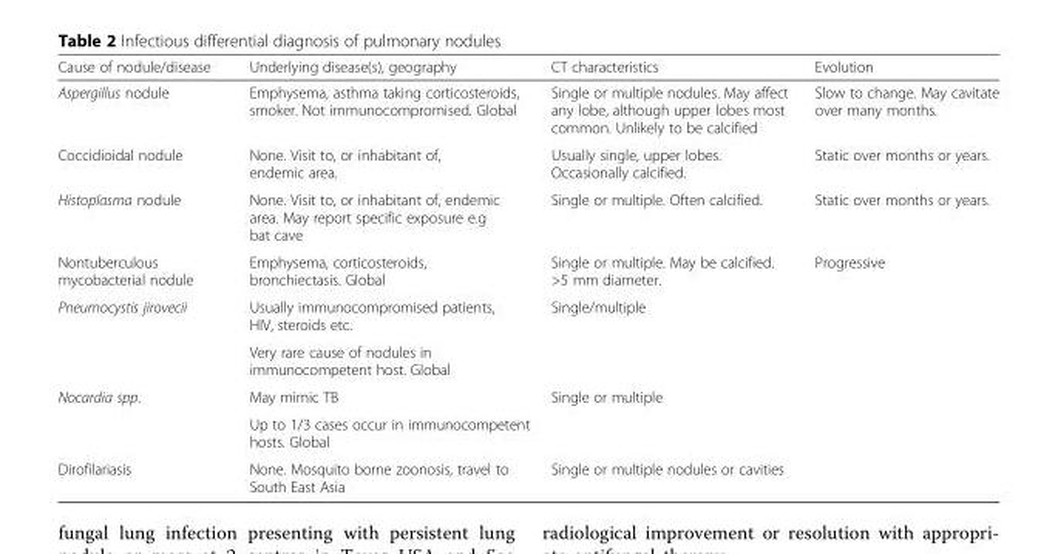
<table><thead><tr><td>Cause of nodule/disease</td><td>Underlying disease(s), geography</td><td>CT characteristics</td><td>Evolution</td></tr></thead><tbody><tr><td>Aspergillus nodule</td><td>Emphysema, asthma taking corticosteroids, smoker. Not immunocompromised. Global</td><td>Single or multiple nodules. May affect any lobe, although upper lobes most common. Unlikely to be calcified</td><td>Slow to change. May cavitate over many months.</td></tr><tr><td>Coccidioidal nodule</td><td>None. Visit to, or inhabitant of, endemic area.</td><td>Usually single, upper lobes. Occasionally calcified.</td><td>Static over months or years.</td></tr><tr><td>Histoplasma nodule</td><td>None. Visit to, or inhabitant of, endemic area. May report specific exposure e.g bat cave</td><td>Single or multiple. Often calcified.</td><td>Static over months or years.</td></tr><tr><td>Nontuberculous mycobacterial nodule</td><td>Emphysema, corticosteroids, bronchiectasis. Global</td><td>Single or multiple. May be calcified. &gt;5 mm diameter.</td><td>Progressive</td></tr><tr><td rowspan="2">Pneumocystis jirovecii</td><td>Usually immunocompromised patients, HIV, steroids etc.</td><td rowspan="2">Single/multiple</td><td rowspan="2"></td></tr><tr><td>Very rare cause of nodules in immunocompetent host. Global</td></tr><tr><td rowspan="2">Nocardia spp.</td><td>May mimic TB</td><td rowspan="2">Single or multiple</td><td rowspan="2"></td></tr><tr><td>Up to 1/3 cases occur in immunocompetent hosts. Global</td></tr><tr><td>Dirofilariasis</td><td>None. Mosquito borne zoonosis, travel to South East Asia</td><td>Single or multiple nodules or cavities</td><td></td></tr></tbody></table>